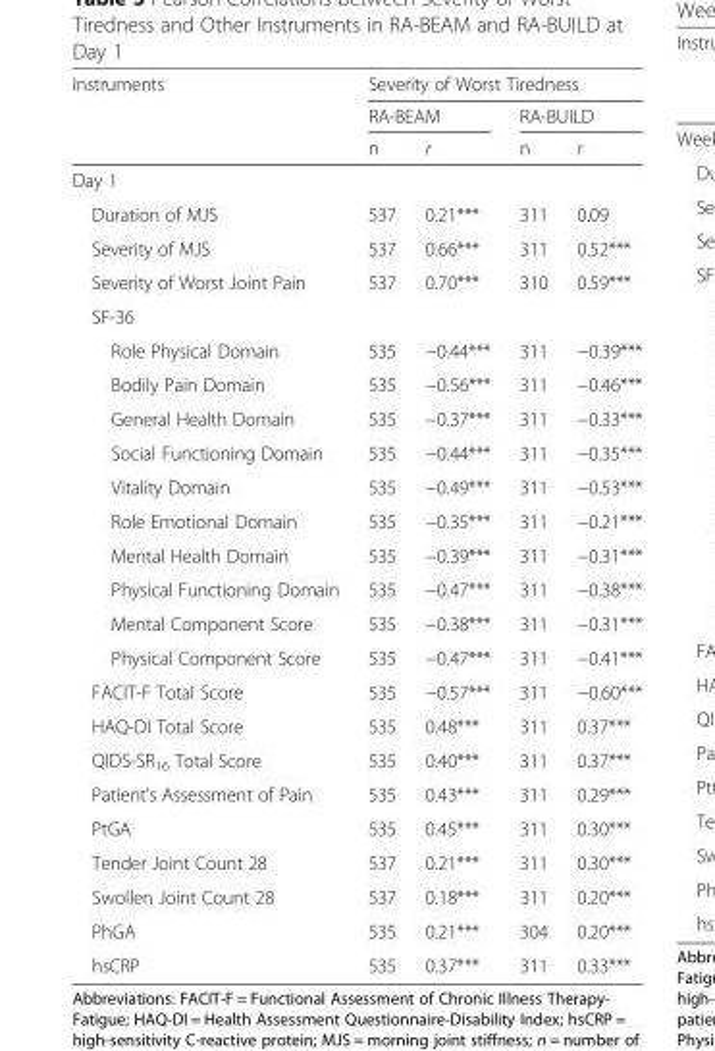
<table><thead><tr><td rowspan="3">Instruments</td><td colspan="4">Severity of Worst Tiredness</td></tr><tr><td colspan="2">RA-BEAM</td><td colspan="2">RA-BUILD</td></tr><tr><td>n</td><td>r</td><td>n</td><td>r</td></tr></thead><tbody><tr><td colspan="5">Day 1</td></tr><tr><td>Duration of MJS</td><td>537</td><td>0.21***</td><td>311</td><td>0.09</td></tr><tr><td>Severity of MJS</td><td>537</td><td>0.66***</td><td>311</td><td>0.52***</td></tr><tr><td>Severity of Worst Joint Pain</td><td>537</td><td>0.70***</td><td>310</td><td>0.59***</td></tr><tr><td colspan="5">SF-36</td></tr><tr><td>Role Physical Domain</td><td>535</td><td>−0.44***</td><td>311</td><td>−0.39***</td></tr><tr><td>Bodily Pain Domain</td><td>535</td><td>−0.56***</td><td>311</td><td>−0.46***</td></tr><tr><td>General Health Domain</td><td>535</td><td>−0.37***</td><td>311</td><td>−0.33***</td></tr><tr><td>Social Functioning Domain</td><td>535</td><td>−0.44***</td><td>311</td><td>−0.35***</td></tr><tr><td>Vitality Domain</td><td>535</td><td>−0.49***</td><td>311</td><td>−0.53***</td></tr><tr><td>Role Emotional Domain</td><td>535</td><td>−0.35***</td><td>311</td><td>−0.21***</td></tr><tr><td>Mental Health Domain</td><td>535</td><td>−0.39***</td><td>311</td><td>−0.31***</td></tr><tr><td>Physical Functioning Domain</td><td>535</td><td>−0.47***</td><td>311</td><td>−0.38***</td></tr><tr><td>Mental Component Score</td><td>535</td><td>−0.38***</td><td>311</td><td>−0.31***</td></tr><tr><td>Physical Component Score</td><td>535</td><td>−0.47***</td><td>311</td><td>−0.41***</td></tr><tr><td>FACIT-F Total Score</td><td>535</td><td>−0.57***</td><td>311</td><td>−0.60***</td></tr><tr><td>HAQ-DI Total Score</td><td>535</td><td>0.48***</td><td>311</td><td>0.37***</td></tr><tr><td>QIDS-SR<sub>16</sub> Total Score</td><td>535</td><td>0.40***</td><td>311</td><td>0.37***</td></tr><tr><td>Patient’s Assessment of Pain</td><td>535</td><td>0.43***</td><td>311</td><td>0.29***</td></tr><tr><td>PtGA</td><td>535</td><td>0.45***</td><td>311</td><td>0.30***</td></tr><tr><td>Tender Joint Count 28</td><td>537</td><td>0.21***</td><td>311</td><td>0.30***</td></tr><tr><td>Swollen Joint Count 28</td><td>537</td><td>0.18***</td><td>311</td><td>0.20***</td></tr><tr><td>PhGA</td><td>535</td><td>0.21***</td><td>304</td><td>0.20***</td></tr><tr><td>hsCRP</td><td>535</td><td>0.37***</td><td>311</td><td>0.33***</td></tr></tbody></table>